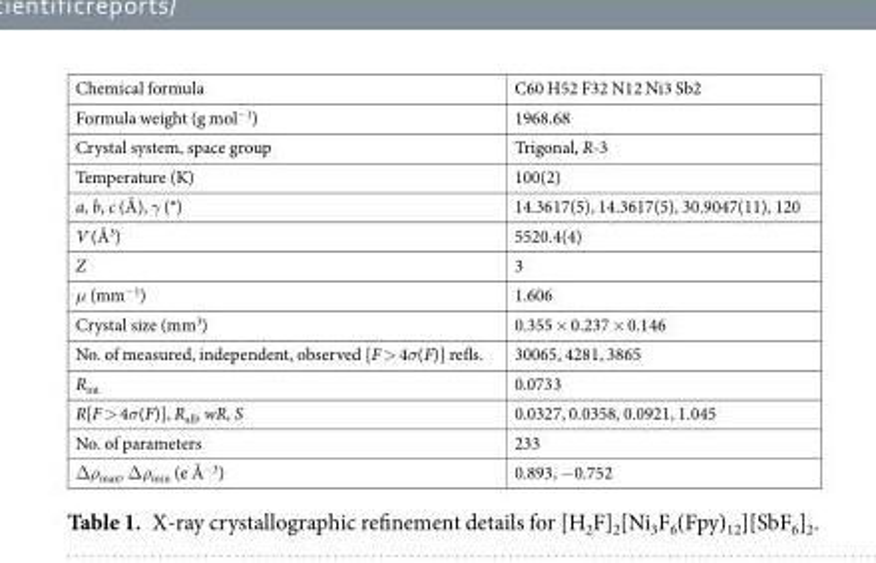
<table><thead><tr><td>Chemical formula</td><td>C60 H52 F32 N12 Ni3 Sb2</td></tr></thead><tbody><tr><td>Formula weight (g mol<sup>−1</sup>)</td><td>1968.68</td></tr><tr><td>Crystal system, space group</td><td>Trigonal, R-3</td></tr><tr><td>Temperature (K)</td><td>100(2)</td></tr><tr><td>a, b, c (Å), γ (°)</td><td>14.3617(5), 14.3617(5), 30.9047(11), 120</td></tr><tr><td>V (Å<sup>3</sup>)</td><td>5520.4(4)</td></tr><tr><td>Z</td><td>3</td></tr><tr><td>μ (mm<sup>−1</sup>)</td><td>1.606</td></tr><tr><td>Crystal size (mm<sup>3</sup>)</td><td>0.355 × 0.237 × 0.146</td></tr><tr><td>No. of measured, independent, observed [F &gt; 4σ(F)] refls.</td><td>30065, 4281, 3865</td></tr><tr><td>R<sub>int</sub></td><td>0.0733</td></tr><tr><td>R[F &gt; 4σ(F)], R<sub>all</sub>, wR, S</td><td>0.0327, 0.0358, 0.0921, 1.045</td></tr><tr><td>No. of parameters</td><td>233</td></tr><tr><td>Δρ<sub>max</sub>, Δρ<sub>min</sub> (e Å<sup>−3</sup>)</td><td>0.893, −0.752</td></tr></tbody></table>